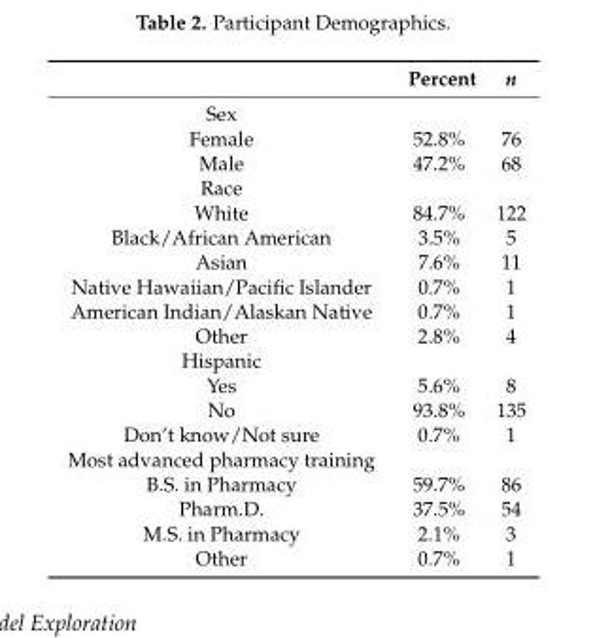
<table><thead><tr><td></td><td>Percent</td><td>n</td></tr></thead><tbody><tr><td colspan="3">Sex</td></tr><tr><td>Female</td><td>52.8%</td><td>76</td></tr><tr><td>Male</td><td>47.2%</td><td>68</td></tr><tr><td colspan="3">Race</td></tr><tr><td>White</td><td>84.7%</td><td>122</td></tr><tr><td>Black/African American</td><td>3.5%</td><td>5</td></tr><tr><td>Asian</td><td>7.6%</td><td>11</td></tr><tr><td>Native Hawaiian/Pacific Islander</td><td>0.7%</td><td>1</td></tr><tr><td>American Indian/Alaskan Native</td><td>0.7%</td><td>1</td></tr><tr><td>Other</td><td>2.8%</td><td>4</td></tr><tr><td colspan="3">Hispanic</td></tr><tr><td>Yes</td><td>5.6%</td><td>8</td></tr><tr><td>No</td><td>93.8%</td><td>135</td></tr><tr><td>Don’t know/Not sure</td><td>0.7%</td><td>1</td></tr><tr><td colspan="3">Most advanced pharmacy training</td></tr><tr><td>B.S. in Pharmacy</td><td>59.7%</td><td>86</td></tr><tr><td>Pharm.D.</td><td>37.5%</td><td>54</td></tr><tr><td>M.S. in Pharmacy</td><td>2.1%</td><td>3</td></tr><tr><td>Other</td><td>0.7%</td><td>1</td></tr></tbody></table>